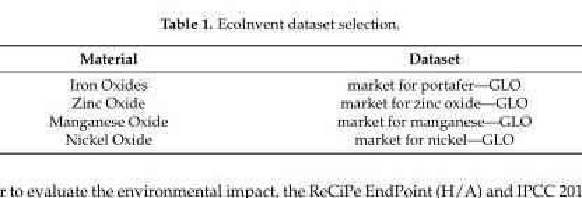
<table><thead><tr><td>Material</td><td>Dataset</td></tr></thead><tbody><tr><td>Iron Oxides</td><td>market for portafer—GLO</td></tr><tr><td>Zinc Oxide</td><td>market for zinc oxide—GLO</td></tr><tr><td>Manganese Oxide</td><td>market for manganese—GLO</td></tr><tr><td>Nickel Oxide</td><td>market for nickel—GLO</td></tr></tbody></table>